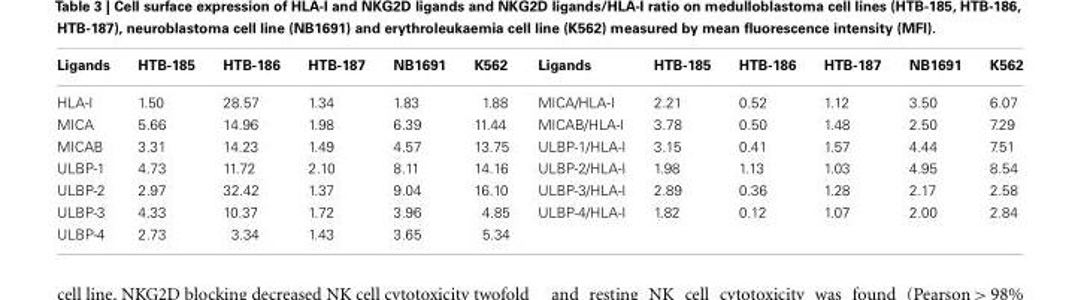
<table><thead><tr><td>Ligands</td><td>HTB-185</td><td>HTB-186</td><td>HTB-187</td><td>NB1691</td><td>K562</td><td>Ligands</td><td>HTB-185</td><td>HTB-186</td><td>HTB-187</td><td>NB1691</td><td>K562</td></tr></thead><tbody><tr><td>HLA-I</td><td>1.50</td><td>28.57</td><td>1.34</td><td>1.83</td><td>1.88</td><td>MICA/HLA-I</td><td>2.21</td><td>0.52</td><td>1.12</td><td>3.50</td><td>6.07</td></tr><tr><td>MICA</td><td>5.66</td><td>14.96</td><td>1.98</td><td>6.39</td><td>11.44</td><td>MICAB/HLA-I</td><td>3.78</td><td>0.50</td><td>1.48</td><td>2.50</td><td>7.29</td></tr><tr><td>MICAB</td><td>3.31</td><td>14.23</td><td>1.49</td><td>4.57</td><td>13.75</td><td>ULBP-1/HLA-I</td><td>3.15</td><td>0.41</td><td>1.57</td><td>4.44</td><td>7.51</td></tr><tr><td>ULBP-1</td><td>4.73</td><td>11.72</td><td>2.10</td><td>8.11</td><td>14.16</td><td>ULBP-2/HLA-I</td><td>1.98</td><td>1.13</td><td>1.03</td><td>4.95</td><td>8.54</td></tr><tr><td>ULBP-2</td><td>2.97</td><td>32.42</td><td>1.37</td><td>9.04</td><td>16.10</td><td>ULBP-3/HLA-I</td><td>2.89</td><td>0.36</td><td>1.28</td><td>2.17</td><td>2.58</td></tr><tr><td>ULBP-3</td><td>4.33</td><td>10.37</td><td>1.72</td><td>3.96</td><td>4.85</td><td>ULBP-4/HLA-I</td><td>1.82</td><td>0.12</td><td>1.07</td><td>2.00</td><td>2.84</td></tr><tr><td>ULBP-4</td><td>2.73</td><td>3.34</td><td>1.43</td><td>3.65</td><td>5.34</td><td></td><td></td><td></td><td></td><td></td><td></td></tr></tbody></table>